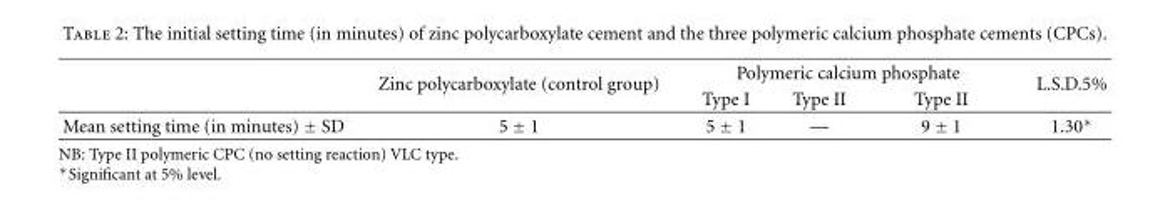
<table><thead><tr><td rowspan="2"></td><td rowspan="2">Zinc polycarboxylate (control group)</td><td colspan="3">Polymeric calcium phosphate</td><td rowspan="2">L.S.D.5%</td></tr><tr><td>Type I</td><td>Type II</td><td>Type II</td></tr></thead><tbody><tr><td>Mean setting time (in minutes) ± SD</td><td>5 ± 1</td><td>5 ± 1</td><td>—</td><td>9 ± 1</td><td>1.30∗</td></tr></tbody></table>